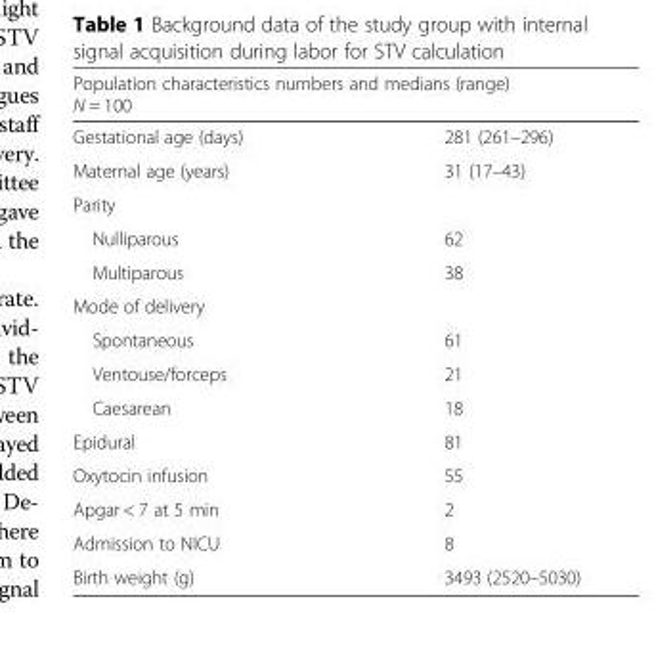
<table><thead><tr><td colspan="2">Population characteristics numbers and medians (range) N = 100</td></tr><tr><td>Gestational age (days)</td><td>281 (261–296)</td></tr></thead><tbody><tr><td>Maternal age (years)</td><td>31 (17–43)</td></tr><tr><td colspan="2">Parity</td></tr><tr><td>Nulliparous</td><td>62</td></tr><tr><td>Multiparous</td><td>38</td></tr><tr><td colspan="2">Mode of delivery</td></tr><tr><td>Spontaneous</td><td>61</td></tr><tr><td>Ventouse/forceps</td><td>21</td></tr><tr><td>Caesarean</td><td>18</td></tr><tr><td>Epidural</td><td>81</td></tr><tr><td>Oxytocin infusion</td><td>55</td></tr><tr><td>Apgar &lt; 7 at 5 min</td><td>2</td></tr><tr><td>Admission to NICU</td><td>8</td></tr><tr><td>Birth weight (g)</td><td>3493 (2520–5030)</td></tr></tbody></table>